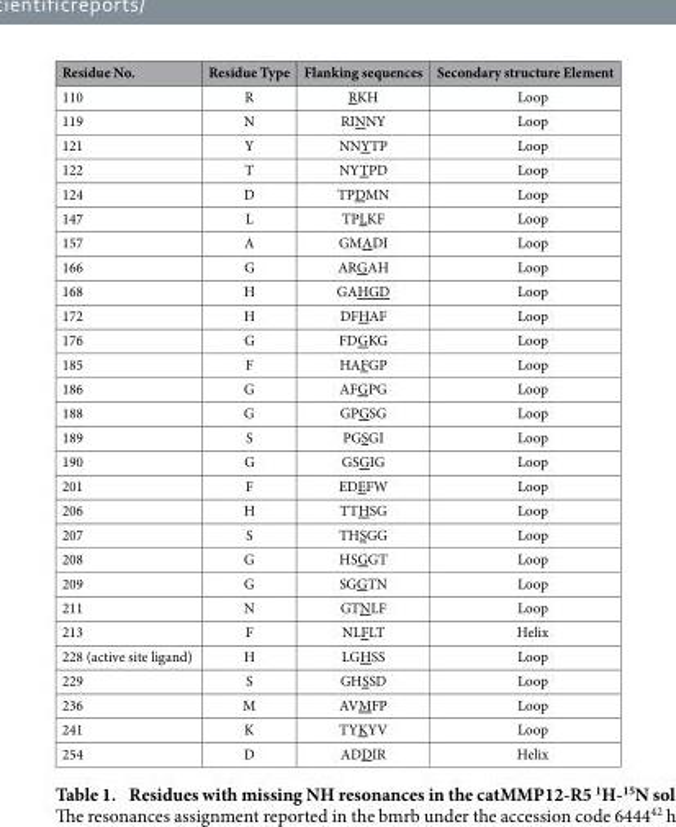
<table><thead><tr><td>Residue No.</td><td>Residue Type</td><td>Flanking sequences</td><td>Secondary structure Element</td></tr></thead><tbody><tr><td>110</td><td>R</td><td>RKH</td><td>Loop</td></tr><tr><td>119</td><td>N</td><td>RINNY</td><td>Loop</td></tr><tr><td>121</td><td>Y</td><td>NNYTP</td><td>Loop</td></tr><tr><td>122</td><td>T</td><td>NYTPD</td><td>Loop</td></tr><tr><td>124</td><td>D</td><td>TPDMN</td><td>Loop</td></tr><tr><td>147</td><td>L</td><td>TPLKF</td><td>Loop</td></tr><tr><td>157</td><td>A</td><td>GMADI</td><td>Loop</td></tr><tr><td>166</td><td>G</td><td>ARGAH</td><td>Loop</td></tr><tr><td>168</td><td>H</td><td>GAHGD</td><td>Loop</td></tr><tr><td>172</td><td>H</td><td>DFHAF</td><td>Loop</td></tr><tr><td>176</td><td>G</td><td>FDGKG</td><td>Loop</td></tr><tr><td>185</td><td>F</td><td>HAFGP</td><td>Loop</td></tr><tr><td>186</td><td>G</td><td>AFGPG</td><td>Loop</td></tr><tr><td>188</td><td>G</td><td>GPGSG</td><td>Loop</td></tr><tr><td>189</td><td>S</td><td>PGSGI</td><td>Loop</td></tr><tr><td>190</td><td>G</td><td>GSGIG</td><td>Loop</td></tr><tr><td>201</td><td>F</td><td>EDEFW</td><td>Loop</td></tr><tr><td>206</td><td>H</td><td>TTHSG</td><td>Loop</td></tr><tr><td>207</td><td>S</td><td>THSGG</td><td>Loop</td></tr><tr><td>208</td><td>G</td><td>HSGGT</td><td>Loop</td></tr><tr><td>209</td><td>G</td><td>SGGTN</td><td>Loop</td></tr><tr><td>211</td><td>N</td><td>GTNLF</td><td>Loop</td></tr><tr><td>213</td><td>F</td><td>NLFLT</td><td>Helix</td></tr><tr><td>228 (active site ligand)</td><td>H</td><td>LGHSS</td><td>Loop</td></tr><tr><td>229</td><td>S</td><td>GHSSD</td><td>Loop</td></tr><tr><td>236</td><td>M</td><td>AVMFP</td><td>Loop</td></tr><tr><td>241</td><td>K</td><td>TYKYV</td><td>Loop</td></tr><tr><td>254</td><td>D</td><td>ADDIR</td><td>Helix</td></tr></tbody></table>